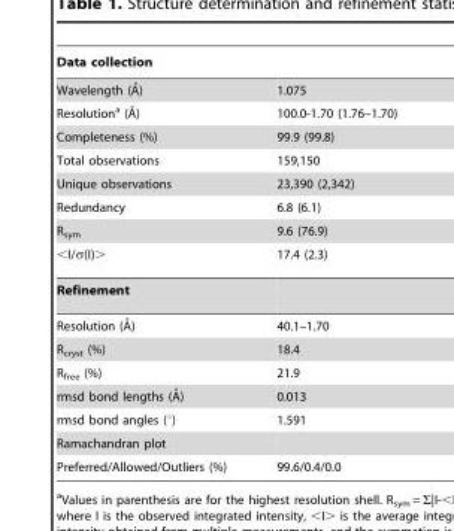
<table><thead><tr><td>Data collection</td><td></td></tr></thead><tbody><tr><td>Wavelength (A˚)</td><td>1.075</td></tr><tr><td>Resolutiona (A˚)</td><td>100.0-1.70 (1.76–1.70)</td></tr><tr><td>Completeness (%)</td><td>99.9 (99.8)</td></tr><tr><td>Total observations</td><td>159,150</td></tr><tr><td>Unique observations</td><td>23,390 (2,342)</td></tr><tr><td>Redundancy</td><td>6.8 (6.1)</td></tr><tr><td>R<sub>sym</sub></td><td>9.6 (76.9)</td></tr><tr><td>&lt;I/σ(I)&gt;</td><td>17.4 (2.3)</td></tr><tr><td colspan="2">Refinement</td></tr><tr><td>Resolution (A˚)</td><td>40.1–1.70</td></tr><tr><td>R<sub>cryst</sub> (%)</td><td>18.4</td></tr><tr><td>R<sub>free</sub> (%)</td><td>21.9</td></tr><tr><td>rmsd bond lengths (A˚)</td><td>0.013</td></tr><tr><td>rmsd bond angles (°)</td><td>1.591</td></tr><tr><td colspan="2">Ramachandran plot</td></tr><tr><td>Preferred/Allowed/Outliers (%)</td><td>99.6/0.4/0.0</td></tr></tbody></table>